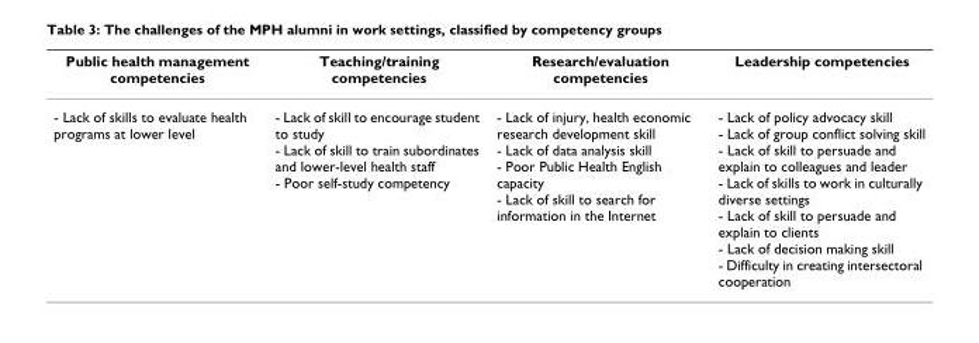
<table><thead><tr><td>Public health management competencies</td><td>Teaching/training competencies</td><td>Research/evaluation competencies</td><td>Leadership competencies</td></tr></thead><tbody><tr><td>- Lack of skills to evaluate health programs at lower level</td><td>- Lack of skill to encourage student to study - Lack of skill to train subordinates and lower-level health staff - Poor self-study competency</td><td>- Lack of injury, health economic research development skill - Lack of data analysis skill - Poor Public Health English capacity - Lack of skill to search for information in the Internet</td><td>- Lack of policy advocacy skill - Lack of group conflict solving skill - Lack of skill to persuade and explain to colleagues and leader - Lack of skills to work in culturally diverse settings - Lack of skill to persuade and explain to clients - Lack of decision making skill - Difficulty in creating intersectoral cooperation</td></tr></tbody></table>